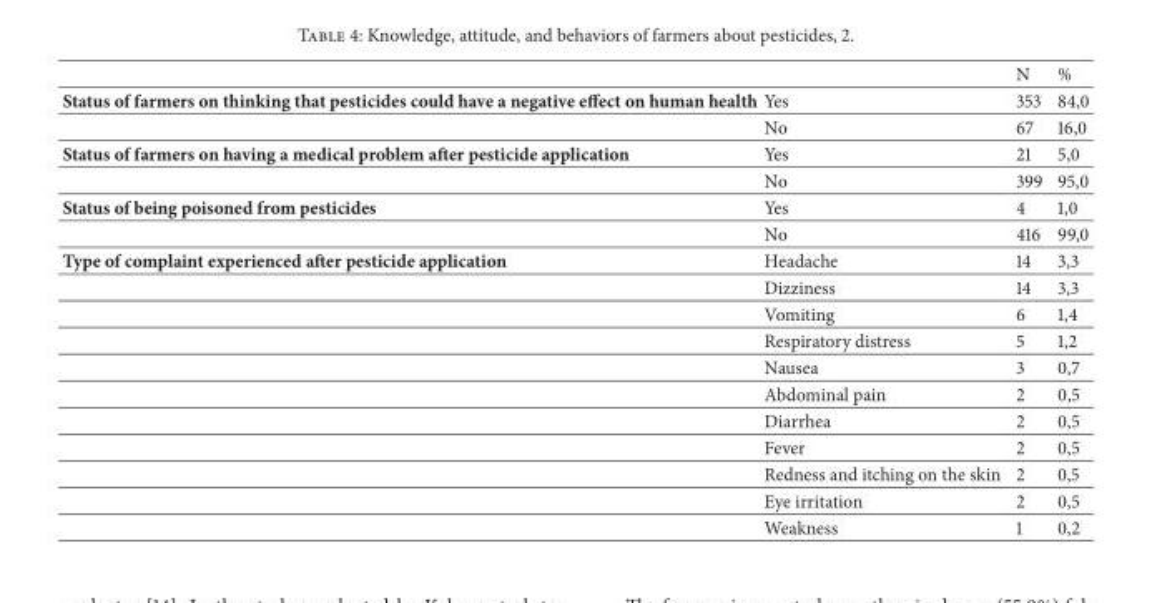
<table><thead><tr><td></td><td></td><td>N</td><td>%</td></tr></thead><tbody><tr><td rowspan="2">Status of farmers on thinking that pesticides could have a negative effect on human health</td><td>Yes</td><td>353</td><td>84,0</td></tr><tr><td>No</td><td>67</td><td>16,0</td></tr><tr><td rowspan="2">Status of farmers on having a medical problem after pesticide application</td><td>Yes</td><td>21</td><td>5,0</td></tr><tr><td>No</td><td>399</td><td>95,0</td></tr><tr><td rowspan="2">Status of being poisoned from pesticides</td><td>Yes</td><td>4</td><td>1,0</td></tr><tr><td>No</td><td>416</td><td>99,0</td></tr><tr><td rowspan="11">Type of complaint experienced after pesticide application</td><td>Headache</td><td>14</td><td>3,3</td></tr><tr><td>Dizziness</td><td>14</td><td>3,3</td></tr><tr><td>Vomiting</td><td>6</td><td>1,4</td></tr><tr><td>Respiratory distress</td><td>5</td><td>1,2</td></tr><tr><td>Nausea</td><td>3</td><td>0,7</td></tr><tr><td>Abdominal pain</td><td>2</td><td>0,5</td></tr><tr><td>Diarrhea</td><td>2</td><td>0,5</td></tr><tr><td>Fever</td><td>2</td><td>0,5</td></tr><tr><td>Redness and itching on the skin</td><td>2</td><td>0,5</td></tr><tr><td>Eye irritation</td><td>2</td><td>0,5</td></tr><tr><td>Weakness</td><td>1</td><td>0,2</td></tr></tbody></table>